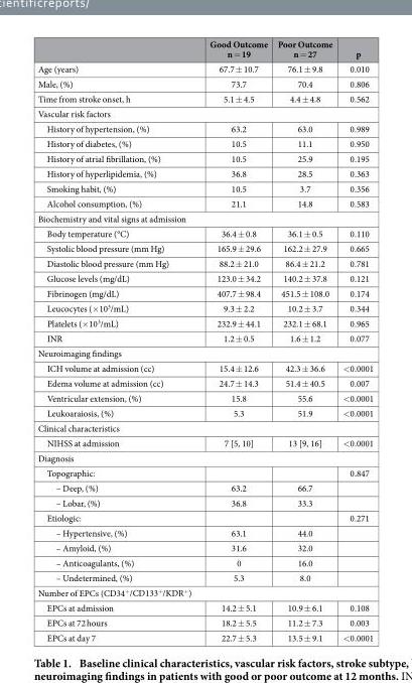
<table><thead><tr><td></td><td>Good Outcome n = 19</td><td>Poor Outcome n = 27</td><td>p</td></tr></thead><tbody><tr><td>Age (years)</td><td>67.7 ± 10.7</td><td>76.1 ± 9.8</td><td>0.010</td></tr><tr><td>Male, (%)</td><td>73.7</td><td>70.4</td><td>0.806</td></tr><tr><td>Time from stroke onset, h</td><td>5.1 ± 4.5</td><td>4.4 ± 4.8</td><td>0.562</td></tr><tr><td colspan="4">Vascular risk factors</td></tr><tr><td>History of hypertension, (%)</td><td>63.2</td><td>63.0</td><td>0.989</td></tr><tr><td>History of diabetes, (%)</td><td>10.5</td><td>11.1</td><td>0.950</td></tr><tr><td>History of atrial fibrillation, (%)</td><td>10.5</td><td>25.9</td><td>0.195</td></tr><tr><td>History of hyperlipidemia, (%)</td><td>36.8</td><td>28.5</td><td>0.363</td></tr><tr><td>Smoking habit, (%)</td><td>10.5</td><td>3.7</td><td>0.356</td></tr><tr><td>Alcohol consumption, (%)</td><td>21.1</td><td>14.8</td><td>0.583</td></tr><tr><td colspan="4">Biochemistry and vital signs at admission</td></tr><tr><td>Body temperature (°C)</td><td>36.4 ± 0.8</td><td>36.1 ± 0.5</td><td>0.110</td></tr><tr><td>Systolic blood pressure (mm Hg)</td><td>165.9 ± 29.6</td><td>162.2 ± 27.9</td><td>0.665</td></tr><tr><td>Diastolic blood pressure (mm Hg)</td><td>88.2 ± 21.0</td><td>86.4 ± 21.2</td><td>0.781</td></tr><tr><td>Glucose levels (mg/dL)</td><td>123.0 ± 34.2</td><td>140.2 ± 37.8</td><td>0.121</td></tr><tr><td>Fibrinogen (mg/dL)</td><td>407.7 ± 98.4</td><td>451.5 ± 108.0</td><td>0.174</td></tr><tr><td>Leucocytes (×10<sup>3</sup>/mL)</td><td>9.3 ± 2.2</td><td>10.2 ± 3.7</td><td>0.344</td></tr><tr><td>Platelets (×10<sup>3</sup>/mL)</td><td>232.9 ± 44.1</td><td>232.1 ± 68.1</td><td>0.965</td></tr><tr><td>INR</td><td>1.2 ± 0.5</td><td>1.6 ± 1.2</td><td>0.077</td></tr><tr><td colspan="4">Neuroimaging findings</td></tr><tr><td>ICH volume at admission (cc)</td><td>15.4 ± 12.6</td><td>42.3 ± 36.6</td><td>&lt; 0.0001</td></tr><tr><td>Edema volume at admission (cc)</td><td>24.7 ± 14.3</td><td>51.4 ± 40.5</td><td>0.007</td></tr><tr><td>Ventricular extension, (%)</td><td>15.8</td><td>55.6</td><td>&lt; 0.0001</td></tr><tr><td>Leukoaraiosis, (%)</td><td>5.3</td><td>51.9</td><td>&lt; 0.0001</td></tr><tr><td colspan="4">Clinical characteristics</td></tr><tr><td>NIHSS at admission</td><td>7 [5, 10]</td><td>13 [9, 16]</td><td>&lt; 0.0001</td></tr><tr><td colspan="4">Diagnosis</td></tr><tr><td>Topographic:</td><td></td><td></td><td>0.847</td></tr><tr><td>– Deep, (%)</td><td>63.2</td><td>66.7</td><td></td></tr><tr><td>– Lobar, (%)</td><td>36.8</td><td>33.3</td><td></td></tr><tr><td>Etiologic:</td><td></td><td></td><td>0.271</td></tr><tr><td>– Hypertensive, (%)</td><td>63.1</td><td>44.0</td><td></td></tr><tr><td>– Amyloid, (%)</td><td>31.6</td><td>32.0</td><td></td></tr><tr><td>– Anticoagulants, (%)</td><td>0</td><td>16.0</td><td></td></tr><tr><td>– Undetermined, (%)</td><td>5.3</td><td>8.0</td><td></td></tr><tr><td colspan="4">Number of EPCs (CD34<sup>+</sup>/CD133<sup>+</sup>/KDR<sup>+</sup>)</td></tr><tr><td>EPCs at admission</td><td>14.2 ± 5.1</td><td>10.9 ± 6.1</td><td>0.108</td></tr><tr><td>EPCs at 72 hours</td><td>18.2 ± 5.5</td><td>11.2 ± 7.3</td><td>0.003</td></tr><tr><td>EPCs at day 7</td><td>22.7 ± 5.3</td><td>13.5 ± 9.1</td><td>&lt; 0.0001</td></tr></tbody></table>